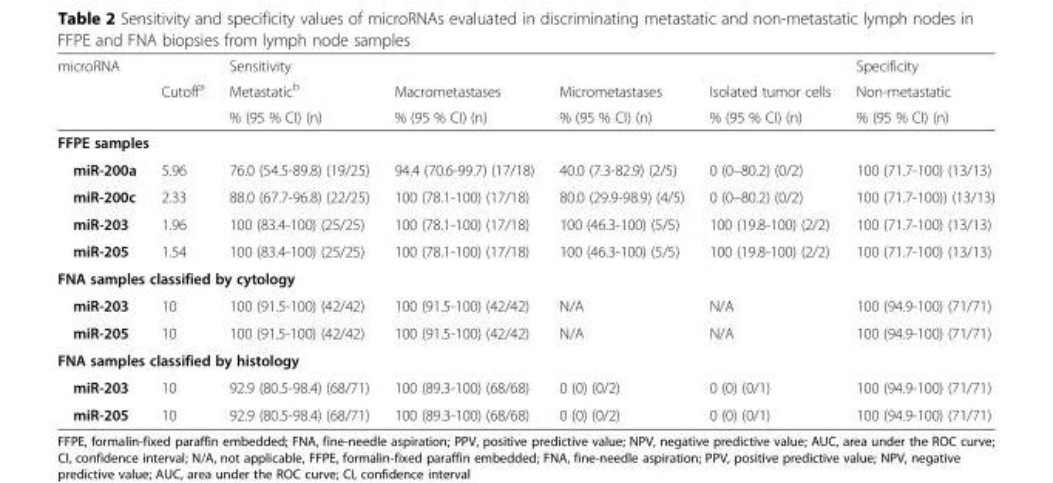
<table><thead><tr><td rowspan="3">microRNA</td><td rowspan="3">Cutoff<sup>a</sup></td><td colspan="3">Sensitivity</td><td rowspan="3">Isolated tumor cells % (95 % CI) (n)</td><td rowspan="3">Specificity Non-metastatic % (95 % CI) (n)</td></tr><tr><td rowspan="2">Metastatic<sup>b</sup> % (95 % CI) (n)</td><td rowspan="2">Macrometastases % (95 % CI) (n)</td><td rowspan="2">Micrometastases % (95 % CI) (n)</td></tr><tr></tr></thead><tbody><tr><td colspan="7">FFPE samples</td></tr><tr><td>miR-200a</td><td>5.96</td><td>76.0 (54.5-89.8) (19/25)</td><td>94.4 (70.6-99.7) (17/18)</td><td>40.0 (7.3-82.9) (2/5)</td><td>0 (0–80.2) (0/2)</td><td>100 (71.7-100) (13/13)</td></tr><tr><td>miR-200c</td><td>2.33</td><td>88.0 (67.7-96.8) (22/25)</td><td>100 (78.1-100) (17/18)</td><td>80.0 (29.9-98.9) (4/5)</td><td>0 (0–80.2) (0/2)</td><td>100 (71.7-100)) (13/13)</td></tr><tr><td>miR-203</td><td>1.96</td><td>100 (83.4-100) (25/25)</td><td>100 (78.1-100) (17/18)</td><td>100 (46.3-100) (5/5)</td><td>100 (19.8-100) (2/2)</td><td>100 (71.7-100) (13/13)</td></tr><tr><td>miR-205</td><td>1.54</td><td>100 (83.4-100) (25/25)</td><td>100 (78.1-100) (17/18)</td><td>100 (46.3-100) (5/5)</td><td>100 (19.8-100) (2/2)</td><td>100 (71.7-100) (13/13)</td></tr><tr><td colspan="7">FNA samples classified by cytology</td></tr><tr><td>miR-203</td><td>10</td><td>100 (91.5-100) (42/42)</td><td>100 (91.5-100) (42/42)</td><td>N/A</td><td>N/A</td><td>100 (94.9-100) (71/71)</td></tr><tr><td>miR-205</td><td>10</td><td>100 (91.5-100) (42/42)</td><td>100 (91.5-100) (42/42)</td><td>N/A</td><td>N/A</td><td>100 (94.9-100) (71/71)</td></tr><tr><td colspan="7">FNA samples classified by histology</td></tr><tr><td>miR-203</td><td>10</td><td>92.9 (80.5-98.4) (68/71)</td><td>100 (89.3-100) (68/68)</td><td>0 (0) (0/2)</td><td>0 (0) (0/1)</td><td>100 (94.9-100) (71/71)</td></tr><tr><td>miR-205</td><td>10</td><td>92.9 (80.5-98.4) (68/71)</td><td>100 (89.3-100) (68/68)</td><td>0 (0) (0/2)</td><td>0 (0) (0/1)</td><td>100 (94.9-100) (71/71)</td></tr></tbody></table>